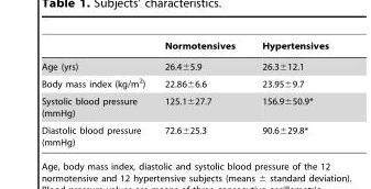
<table><thead><tr><td></td><td>Normotensives</td><td>Hypertensives</td></tr></thead><tbody><tr><td>Age (yrs)</td><td>26.4±5.9</td><td>26.3±12.1</td></tr><tr><td>Body mass index (kg/m<sup>2</sup>)</td><td>22.86±6.6</td><td>23.95±9.7</td></tr><tr><td>Systolic blood pressure (mmHg)</td><td>125.1±27.7</td><td>156.9±50.9*</td></tr><tr><td>Diastolic blood pressure (mmHg)</td><td>72.6±25.3</td><td>90.6±29.8*</td></tr></tbody></table>